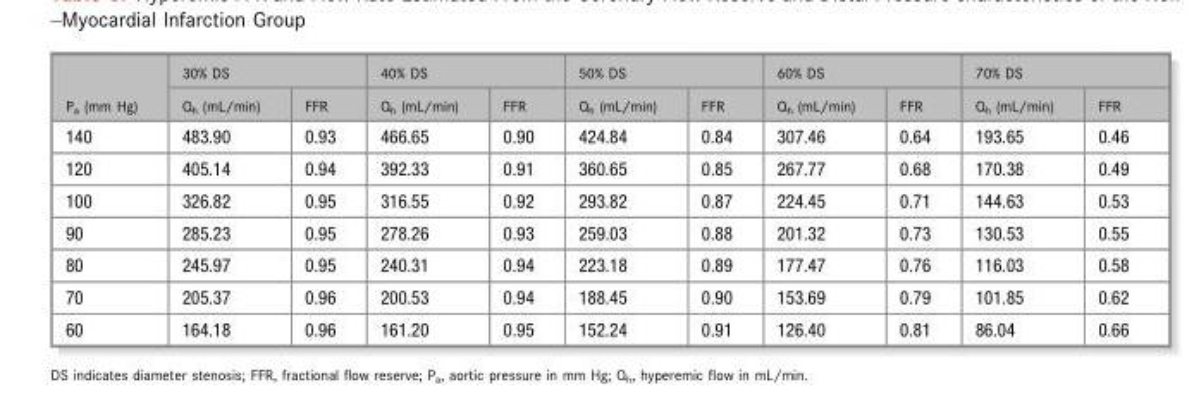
<table><thead><tr><td rowspan="2">P<sub>a</sub> (mm Hg)</td><td colspan="2">30% DS</td><td colspan="2">40% DS</td><td colspan="2">50% DS</td><td colspan="2">60% DS</td><td colspan="2">70% DS</td></tr><tr><td>Q<sub>h</sub> (mL/min)</td><td>FFR</td><td>Q<sub>h</sub> (mL/min)</td><td>FFR</td><td>Q<sub>h</sub> (mL/min)</td><td>FFR</td><td>Q<sub>h</sub> (mL/min)</td><td>FFR</td><td>Q<sub>h</sub> (mL/min)</td><td>FFR</td></tr></thead><tbody><tr><td>140</td><td>483.90</td><td>0.93</td><td>466.65</td><td>0.90</td><td>424.84</td><td>0.84</td><td>307.46</td><td>0.64</td><td>193.65</td><td>0.46</td></tr><tr><td>120</td><td>405.14</td><td>0.94</td><td>392.33</td><td>0.91</td><td>360.65</td><td>0.85</td><td>267.77</td><td>0.68</td><td>170.38</td><td>0.49</td></tr><tr><td>100</td><td>326.82</td><td>0.95</td><td>316.55</td><td>0.92</td><td>293.82</td><td>0.87</td><td>224.45</td><td>0.71</td><td>144.63</td><td>0.53</td></tr><tr><td>90</td><td>285.23</td><td>0.95</td><td>278.26</td><td>0.93</td><td>259.03</td><td>0.88</td><td>201.32</td><td>0.73</td><td>130.53</td><td>0.55</td></tr><tr><td>80</td><td>245.97</td><td>0.95</td><td>240.31</td><td>0.94</td><td>223.18</td><td>0.89</td><td>177.47</td><td>0.76</td><td>116.03</td><td>0.58</td></tr><tr><td>70</td><td>205.37</td><td>0.96</td><td>200.53</td><td>0.94</td><td>188.45</td><td>0.90</td><td>153.69</td><td>0.79</td><td>101.85</td><td>0.62</td></tr><tr><td>60</td><td>164.18</td><td>0.96</td><td>161.20</td><td>0.95</td><td>152.24</td><td>0.91</td><td>126.40</td><td>0.81</td><td>86.04</td><td>0.66</td></tr></tbody></table>